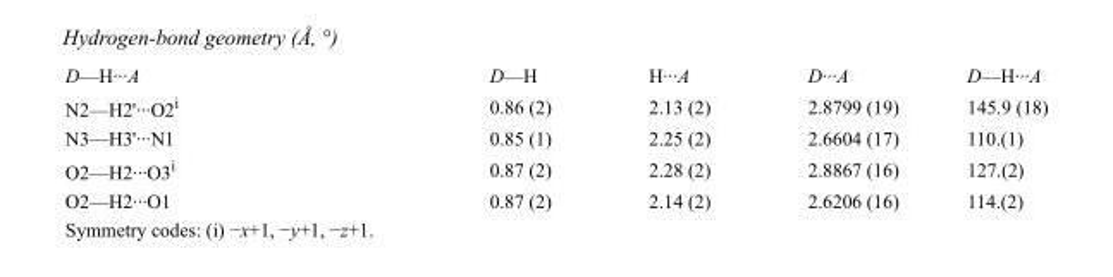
<table><tbody><tr><td>D—H···A</td><td>D—H</td><td>H···A</td><td>D···A</td><td>D—H···A</td></tr><tr><td>N2—H2&#x27;···O2<sup>i</sup></td><td>0.86 (2)</td><td>2.13 (2)</td><td>2.8799 (19)</td><td>145.9 (18)</td></tr><tr><td>N3—H3&#x27;···N1</td><td>0.85 (1)</td><td>2.25 (2)</td><td>2.6604 (17)</td><td>110.(1)</td></tr><tr><td>O2—H2···O3<sup>i</sup></td><td>0.87 (2)</td><td>2.28 (2)</td><td>2.8867 (16)</td><td>127.(2)</td></tr><tr><td>O2—H2···O1</td><td>0.87 (2)</td><td>2.14 (2)</td><td>2.6206 (16)</td><td>114.(2)</td></tr></tbody></table>